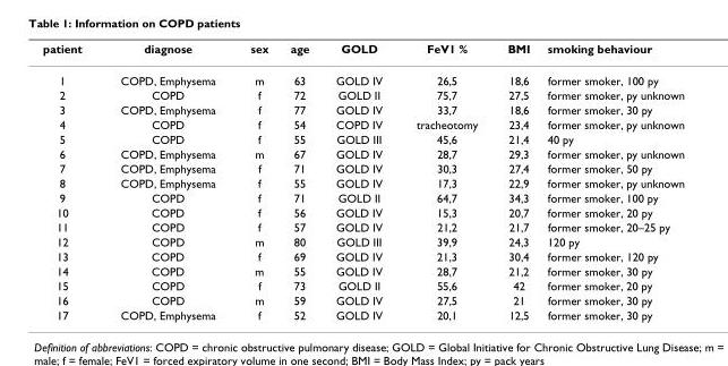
<table><thead><tr><td>patient</td><td>diagnose</td><td>sex</td><td>age</td><td>GOLD</td><td>FeV1 %</td><td>BMI</td><td>smoking behaviour</td></tr></thead><tbody><tr><td>1</td><td>COPD, Emphysema</td><td>m</td><td>63</td><td>GOLD IV</td><td>26,5</td><td>18,6</td><td>former smoker, 100 py</td></tr><tr><td>2</td><td>COPD</td><td>f</td><td>72</td><td>GOLD II</td><td>75,7</td><td>27,5</td><td>former smoker, py unknown</td></tr><tr><td>3</td><td>COPD, Emphysema</td><td>f</td><td>77</td><td>GOLD IV</td><td>33,7</td><td>18,6</td><td>former smoker, 30 py</td></tr><tr><td>4</td><td>COPD</td><td>f</td><td>54</td><td>COPD IV</td><td>tracheotomy</td><td>23,4</td><td>former smoker, py unknown</td></tr><tr><td>5</td><td>COPD</td><td>f</td><td>55</td><td>GOLD III</td><td>45,6</td><td>21,4</td><td>40 py</td></tr><tr><td>6</td><td>COPD, Emphysema</td><td>m</td><td>67</td><td>GOLD IV</td><td>28,7</td><td>29,3</td><td>former smoker, py unknown</td></tr><tr><td>7</td><td>COPD, Emphysema</td><td>f</td><td>71</td><td>GOLD IV</td><td>30,3</td><td>27,4</td><td>former smoker, 50 py</td></tr><tr><td>8</td><td>COPD, Emphysema</td><td>f</td><td>55</td><td>GOLD IV</td><td>17,3</td><td>22,9</td><td>former smoker, py unknown</td></tr><tr><td>9</td><td>COPD</td><td>f</td><td>71</td><td>GOLD II</td><td>64,7</td><td>34,3</td><td>former smoker, 100 py</td></tr><tr><td>10</td><td>COPD</td><td>f</td><td>56</td><td>GOLD IV</td><td>15,3</td><td>20,7</td><td>former smoker, 20 py</td></tr><tr><td>11</td><td>COPD</td><td>f</td><td>57</td><td>GOLD IV</td><td>21,2</td><td>21,7</td><td>former smoker, 20–25 py</td></tr><tr><td>12</td><td>COPD</td><td>m</td><td>80</td><td>GOLD III</td><td>39,9</td><td>24,3</td><td>120 py</td></tr><tr><td>13</td><td>COPD</td><td>f</td><td>69</td><td>GOLD IV</td><td>21,3</td><td>30,4</td><td>former smoker, 120 py</td></tr><tr><td>14</td><td>COPD</td><td>m</td><td>55</td><td>GOLD IV</td><td>28,7</td><td>21,2</td><td>former smoker, 30 py</td></tr><tr><td>15</td><td>COPD</td><td>f</td><td>73</td><td>GOLD II</td><td>55,6</td><td>42</td><td>former smoker, 20 py</td></tr><tr><td>16</td><td>COPD</td><td>m</td><td>59</td><td>GOLD IV</td><td>27,5</td><td>21</td><td>former smoker, 30 py</td></tr><tr><td>17</td><td>COPD, Emphysema</td><td>f</td><td>52</td><td>GOLD IV</td><td>20,1</td><td>12,5</td><td>former smoker, 30 py</td></tr></tbody></table>